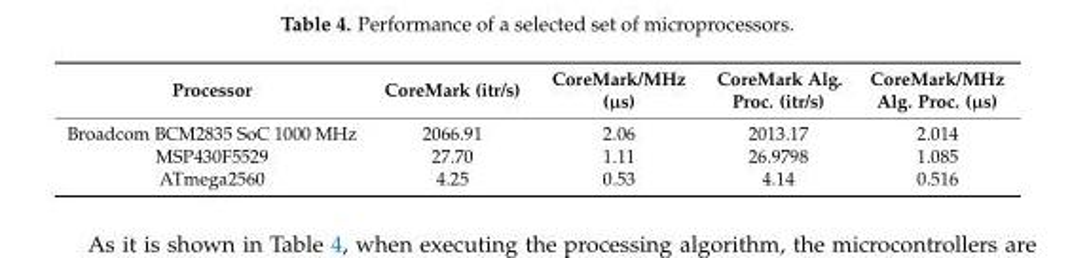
<table><thead><tr><td>Processor</td><td>CoreMark (itr/s)</td><td>CoreMark/MHz (µs)</td><td>CoreMark Alg. Proc. (itr/s)</td><td>CoreMark/MHz Alg. Proc. (µs)</td></tr></thead><tbody><tr><td>Broadcom BCM2835 SoC 1000 MHz</td><td>2066.91</td><td>2.06</td><td>2013.17</td><td>2.014</td></tr><tr><td>MSP430F5529</td><td>27.70</td><td>1.11</td><td>26.9798</td><td>1.085</td></tr><tr><td>ATmega2560</td><td>4.25</td><td>0.53</td><td>4.14</td><td>0.516</td></tr></tbody></table>